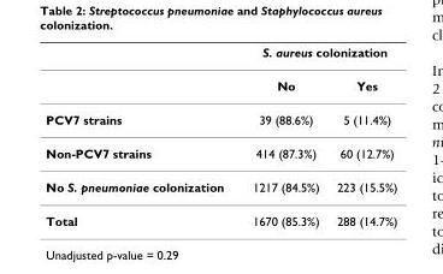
<table><thead><tr><td rowspan="2"></td><td colspan="2">S. aureus colonization</td></tr><tr><td>No</td><td>Yes</td></tr></thead><tbody><tr><td>PCV7 strains</td><td>39 (88.6%)</td><td>5 (11.4%)</td></tr><tr><td>Non-PCV7 strains</td><td>414 (87.3%)</td><td>60 (12.7%)</td></tr><tr><td>No S. pneumoniae colonization</td><td>1217 (84.5%)</td><td>223 (15.5%)</td></tr><tr><td>Total</td><td>1670 (85.3%)</td><td>288 (14.7%)</td></tr></tbody></table>